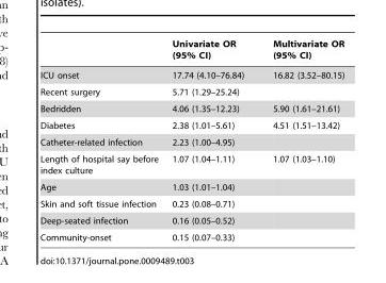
<table><thead><tr><td></td><td>Univariate OR (95% CI)</td><td>Multivariate OR (95% CI)</td></tr></thead><tbody><tr><td>ICU onset</td><td>17.74 (4.10–76.84)</td><td>16.82 (3.52–80.15)</td></tr><tr><td>Recent surgery</td><td>5.71 (1.29–25.24)</td><td></td></tr><tr><td>Bedridden</td><td>4.06 (1.35–12.23)</td><td>5.90 (1.61–21.61)</td></tr><tr><td>Diabetes</td><td>2.38 (1.01–5.61)</td><td>4.51 (1.51–13.42)</td></tr><tr><td>Catheter-related infection</td><td>2.23 (1.00–4.95)</td><td></td></tr><tr><td>Length of hospital say before index culture</td><td>1.07 (1.04–1.11)</td><td>1.07 (1.03–1.10)</td></tr><tr><td>Age</td><td>1.03 (1.01–1.04)</td><td></td></tr><tr><td>Skin and soft tissue infection</td><td>0.23 (0.08–0.71)</td><td></td></tr><tr><td>Deep-seated infection</td><td>0.16 (0.05–0.52)</td><td></td></tr><tr><td>Community-onset</td><td>0.15 (0.07–0.33)</td><td></td></tr></tbody></table>